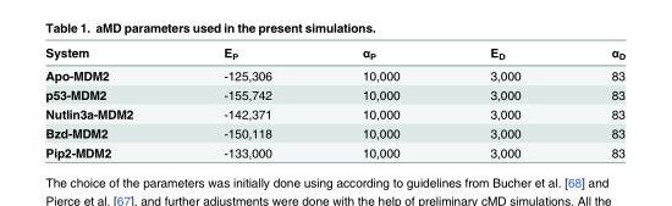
<table><thead><tr><td>System</td><td>E<sub>P</sub></td><td>α<sub>P</sub></td><td>E<sub>D</sub></td><td>α<sub>D</sub></td></tr></thead><tbody><tr><td>Apo-MDM2</td><td>-125,306</td><td>10,000</td><td>3,000</td><td>83</td></tr><tr><td>p53-MDM2</td><td>-155,742</td><td>10,000</td><td>3,000</td><td>83</td></tr><tr><td>Nutlin3a-MDM2</td><td>-142,371</td><td>10,000</td><td>3,000</td><td>83</td></tr><tr><td>Bzd-MDM2</td><td>-150,118</td><td>10,000</td><td>3,000</td><td>83</td></tr><tr><td>Pip2-MDM2</td><td>-133,000</td><td>10,000</td><td>3,000</td><td>83</td></tr></tbody></table>